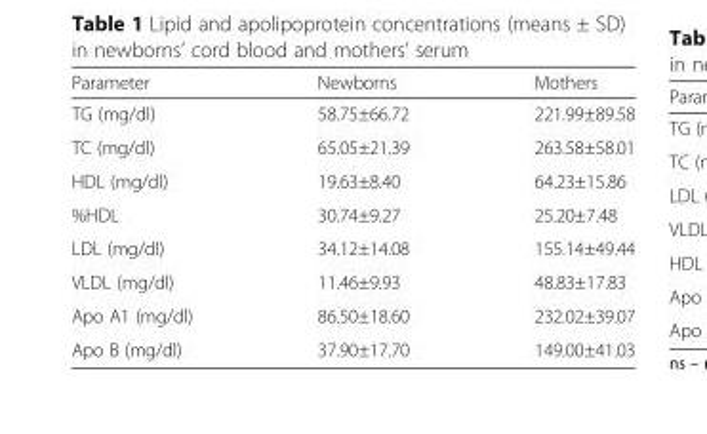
<table><thead><tr><td>Parameter</td><td>Newborns</td><td>Mothers</td></tr></thead><tbody><tr><td>TG (mg/dl)</td><td>58.75±66.72</td><td>221.99±89.58</td></tr><tr><td>TC (mg/dl)</td><td>65.05±21.39</td><td>263.58±58.01</td></tr><tr><td>HDL (mg/dl)</td><td>19.63±8.40</td><td>64.23±15.86</td></tr><tr><td>%HDL</td><td>30.74±9.27</td><td>25.20±7.48</td></tr><tr><td>LDL (mg/dl)</td><td>34.12±14.08</td><td>155.14±49.44</td></tr><tr><td>VLDL (mg/dl)</td><td>11.46±9.93</td><td>48.83±17.83</td></tr><tr><td>Apo A1 (mg/dl)</td><td>86.50±18.60</td><td>232.02±39.07</td></tr><tr><td>Apo B (mg/dl)</td><td>37.90±17.70</td><td>149.00±41.03</td></tr></tbody></table>